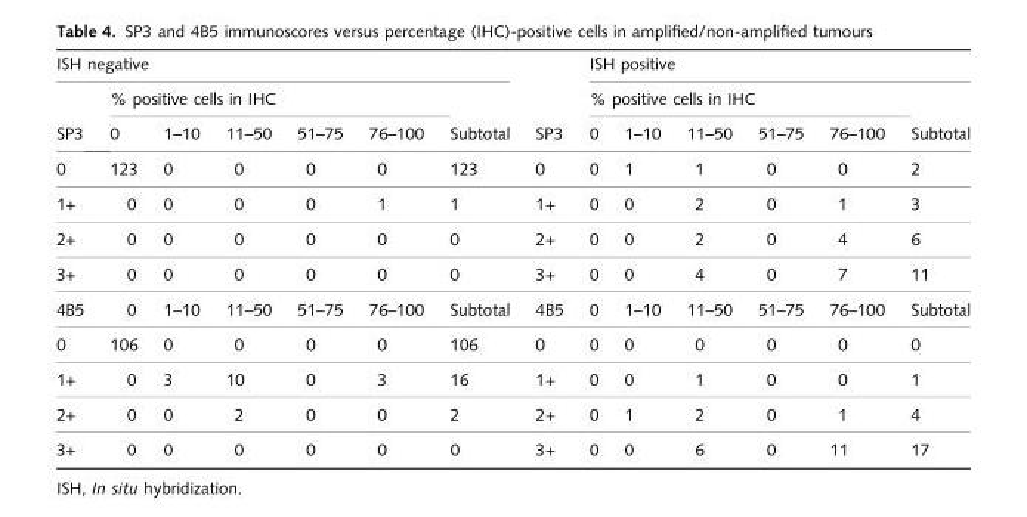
<table><thead><tr><td colspan="7">ISH negative</td><td rowspan="3">SP3</td><td colspan="6">ISH positive</td></tr><tr><td rowspan="2">SP3</td><td colspan="5">% positive cells in IHC</td><td rowspan="2">Subtotal</td><td colspan="5">% positive cells in IHC</td><td rowspan="2">Subtotal</td></tr><tr><td>0</td><td>1–10</td><td>11–50</td><td>51–75</td><td>76–100</td><td>0</td><td>1–10</td><td>11–50</td><td>51–75</td><td>76–100</td></tr></thead><tbody><tr><td>0</td><td>123</td><td>0</td><td>0</td><td>0</td><td>0</td><td>123</td><td>0</td><td>0</td><td>1</td><td>1</td><td>0</td><td>0</td><td>2</td></tr><tr><td>1+</td><td>0</td><td>0</td><td>0</td><td>0</td><td>1</td><td>1</td><td>1+</td><td>0</td><td>0</td><td>2</td><td>0</td><td>1</td><td>3</td></tr><tr><td>2+</td><td>0</td><td>0</td><td>0</td><td>0</td><td>0</td><td>0</td><td>2+</td><td>0</td><td>0</td><td>2</td><td>0</td><td>4</td><td>6</td></tr><tr><td>3+</td><td>0</td><td>0</td><td>0</td><td>0</td><td>0</td><td>0</td><td>3+</td><td>0</td><td>0</td><td>4</td><td>0</td><td>7</td><td>11</td></tr><tr><td>4B5</td><td>0</td><td>1–10</td><td>11–50</td><td>51–75</td><td>76–100</td><td>Subtotal</td><td>4B5</td><td>0</td><td>1–10</td><td>11–50</td><td>51–75</td><td>76–100</td><td>Subtotal</td></tr><tr><td>0</td><td>106</td><td>0</td><td>0</td><td>0</td><td>0</td><td>106</td><td>0</td><td>0</td><td>0</td><td>0</td><td>0</td><td>0</td><td>0</td></tr><tr><td>1+</td><td>0</td><td>3</td><td>10</td><td>0</td><td>3</td><td>16</td><td>1+</td><td>0</td><td>0</td><td>1</td><td>0</td><td>0</td><td>1</td></tr><tr><td>2+</td><td>0</td><td>0</td><td>2</td><td>0</td><td>0</td><td>2</td><td>2+</td><td>0</td><td>1</td><td>2</td><td>0</td><td>1</td><td>4</td></tr><tr><td>3+</td><td>0</td><td>0</td><td>0</td><td>0</td><td>0</td><td>0</td><td>3+</td><td>0</td><td>0</td><td>6</td><td>0</td><td>11</td><td>17</td></tr></tbody></table>